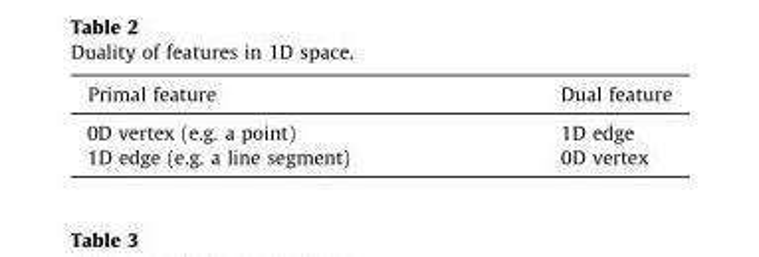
<table><thead><tr><td>Primal feature</td><td>Dual feature</td></tr></thead><tbody><tr><td>0D vertex (e.g. a point)</td><td>1D edge</td></tr><tr><td>1D edge (e.g. a line segment)</td><td>0D vertex</td></tr></tbody></table>